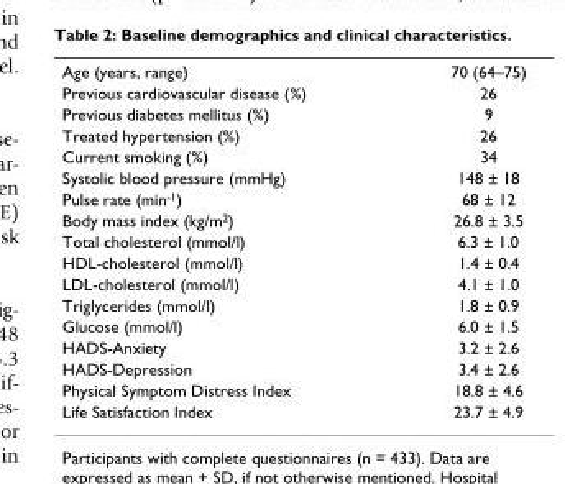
<table><tbody><tr><td>Age (years, range)</td><td>70 (64–75)</td></tr><tr><td>Previous cardiovascular disease (%)</td><td>26</td></tr><tr><td>Previous diabetes mellitus (%)</td><td>9</td></tr><tr><td>Treated hypertension (%)</td><td>26</td></tr><tr><td>Current smoking (%)</td><td>34</td></tr><tr><td>Systolic blood pressure (mmHg)</td><td>148 ± 18</td></tr><tr><td>Pulse rate (min<sup>-1</sup>)</td><td>68 ± 12</td></tr><tr><td>Body mass index (kg/m<sup>2</sup>)</td><td>26.8 ± 3.5</td></tr><tr><td>Total cholesterol (mmol/l)</td><td>6.3 ± 1.0</td></tr><tr><td>HDL-cholesterol (mmol/l)</td><td>1.4 ± 0.4</td></tr><tr><td>LDL-cholesterol (mmol/l)</td><td>4.1 ± 1.0</td></tr><tr><td>Triglycerides (mmol/l)</td><td>1.8 ± 0.9</td></tr><tr><td>Glucose (mmol/l)</td><td>6.0 ± 1.5</td></tr><tr><td>HADS-Anxiety</td><td>3.2 ± 2.6</td></tr><tr><td>HADS-Depression</td><td>3.4 ± 2.6</td></tr><tr><td>Physical Symptom Distress Index</td><td>18.8 ± 4.6</td></tr><tr><td>Life Satisfaction Index</td><td>23.7 ± 4.9</td></tr></tbody></table>